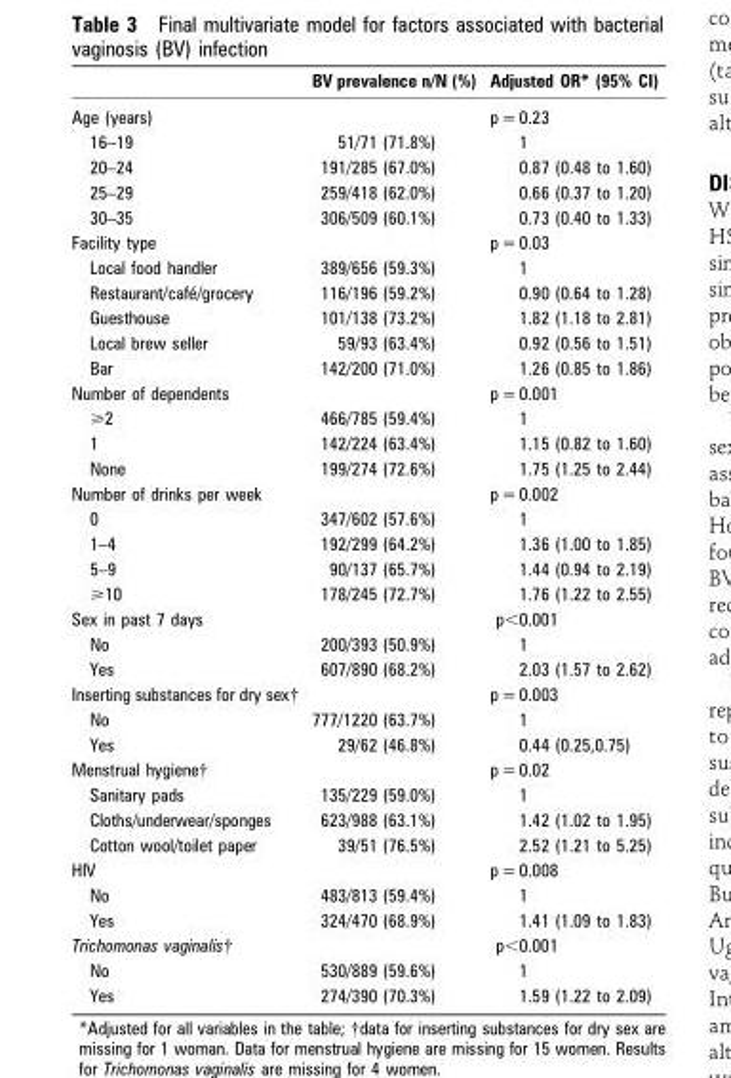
<table><thead><tr><td></td><td>BV prevalence n/N (%)</td><td>Adjusted OR* (95% CI)</td></tr></thead><tbody><tr><td>Age (years)</td><td></td><td>p = 0.23</td></tr><tr><td>16–19</td><td>51/71 (71.8%)</td><td>1</td></tr><tr><td>20–24</td><td>191/285 (67.0%)</td><td>0.87 (0.48 to 1.60)</td></tr><tr><td>25–29</td><td>259/418 (62.0%)</td><td>0.66 (0.37 to 1.20)</td></tr><tr><td>30–35</td><td>306/509 (60.1%)</td><td>0.73 (0.40 to 1.33)</td></tr><tr><td>Facility type</td><td></td><td>p = 0.03</td></tr><tr><td>Local food handler</td><td>389/656 (59.3%)</td><td>1</td></tr><tr><td>Restaurant/cafe´/grocery</td><td>116/196 (59.2%)</td><td>0.90 (0.64 to 1.28)</td></tr><tr><td>Guesthouse</td><td>101/138 (73.2%)</td><td>1.82 (1.18 to 2.81)</td></tr><tr><td>Local brew seller</td><td>59/93 (63.4%)</td><td>0.92 (0.56 to 1.51)</td></tr><tr><td>Bar</td><td>142/200 (71.0%)</td><td>1.26 (0.85 to 1.86)</td></tr><tr><td>Number of dependents</td><td></td><td>p = 0.001</td></tr><tr><td>&gt;2</td><td>466/785 (59.4%)</td><td>1</td></tr><tr><td>1</td><td>142/224 (63.4%)</td><td>1.15 (0.82 to 1.60)</td></tr><tr><td>None</td><td>199/274 (72.6%)</td><td>1.75 (1.25 to 2.44)</td></tr><tr><td>Number of drinks per week</td><td></td><td>p = 0.002</td></tr><tr><td>0</td><td>347/602 (57.6%)</td><td>1</td></tr><tr><td>1–4</td><td>192/299 (64.2%)</td><td>1.36 (1.00 to 1.85)</td></tr><tr><td>5–9</td><td>90/137 (65.7%)</td><td>1.44 (0.94 to 2.19)</td></tr><tr><td>&gt;10</td><td>178/245 (72.7%)</td><td>1.76 (1.22 to 2.55)</td></tr><tr><td>Sex in past 7 days</td><td></td><td>p&lt;0.001</td></tr><tr><td>No</td><td>200/393 (50.9%)</td><td>1</td></tr><tr><td>Yes</td><td>607/890 (68.2%)</td><td>2.03 (1.57 to 2.62)</td></tr><tr><td>Inserting substances for dry sex†</td><td></td><td>p = 0.003</td></tr><tr><td>No</td><td>777/1220 (63.7%)</td><td>1</td></tr><tr><td>Yes</td><td>29/62 (46.8%)</td><td>0.44 (0.25,0.75)</td></tr><tr><td>Menstrual hygiene†</td><td></td><td>p = 0.02</td></tr><tr><td>Sanitary pads</td><td>135/229 (59.0%)</td><td>1</td></tr><tr><td>Cloths/underwear/sponges</td><td>623/988 (63.1%)</td><td>1.42 (1.02 to 1.95)</td></tr><tr><td>Cotton wool/toilet paper</td><td>39/51 (76.5%)</td><td>2.52 (1.21 to 5.25)</td></tr><tr><td>HIV</td><td></td><td>p = 0.008</td></tr><tr><td>No</td><td>483/813 (59.4%)</td><td>1</td></tr><tr><td>Yes</td><td>324/470 (68.9%)</td><td>1.41 (1.09 to 1.83)</td></tr><tr><td>Trichomonas vaginalis†</td><td></td><td>p&lt;0.001</td></tr><tr><td>No</td><td>530/889 (59.6%)</td><td>1</td></tr><tr><td>Yes</td><td>274/390 (70.3%)</td><td>1.59 (1.22 to 2.09)</td></tr></tbody></table>